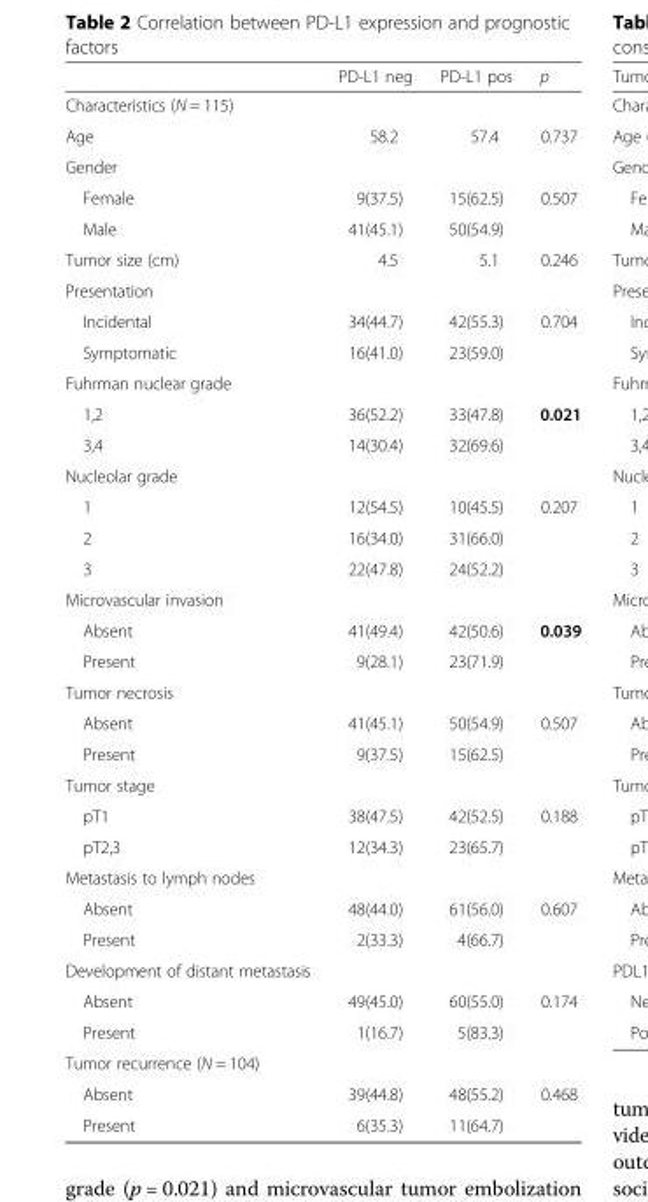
<table><thead><tr><td></td><td>PD-L1 neg</td><td>PD-L1 pos</td><td>p</td></tr></thead><tbody><tr><td colspan="4">Characteristics (N = 115)</td></tr><tr><td>Age</td><td>58.2</td><td>57.4</td><td>0.737</td></tr><tr><td colspan="4">Gender</td></tr><tr><td>Female</td><td>9(37.5)</td><td>15(62.5)</td><td>0.507</td></tr><tr><td>Male</td><td>41(45.1)</td><td>50(54.9)</td><td></td></tr><tr><td>Tumor size (cm)</td><td>4.5</td><td>5.1</td><td>0.246</td></tr><tr><td colspan="4">Presentation</td></tr><tr><td>Incidental</td><td>34(44.7)</td><td>42(55.3)</td><td>0.704</td></tr><tr><td>Symptomatic</td><td>16(41.0)</td><td>23(59.0)</td><td></td></tr><tr><td colspan="4">Fuhrman nuclear grade</td></tr><tr><td>1,2</td><td>36(52.2)</td><td>33(47.8)</td><td>0.021</td></tr><tr><td>3,4</td><td>14(30.4)</td><td>32(69.6)</td><td></td></tr><tr><td colspan="4">Nucleolar grade</td></tr><tr><td>1</td><td>12(54.5)</td><td>10(45.5)</td><td>0.207</td></tr><tr><td>2</td><td>16(34.0)</td><td>31(66.0)</td><td></td></tr><tr><td>3</td><td>22(47.8)</td><td>24(52.2)</td><td></td></tr><tr><td colspan="4">Microvascular invasion</td></tr><tr><td>Absent</td><td>41(49.4)</td><td>42(50.6)</td><td>0.039</td></tr><tr><td>Present</td><td>9(28.1)</td><td>23(71.9)</td><td></td></tr><tr><td colspan="4">Tumor necrosis</td></tr><tr><td>Absent</td><td>41(45.1)</td><td>50(54.9)</td><td>0.507</td></tr><tr><td>Present</td><td>9(37.5)</td><td>15(62.5)</td><td></td></tr><tr><td colspan="4">Tumor stage</td></tr><tr><td>pT1</td><td>38(47.5)</td><td>42(52.5)</td><td>0.188</td></tr><tr><td>pT2,3</td><td>12(34.3)</td><td>23(65.7)</td><td></td></tr><tr><td colspan="4">Metastasis to lymph nodes</td></tr><tr><td>Absent</td><td>48(44.0)</td><td>61(56.0)</td><td>0.607</td></tr><tr><td>Present</td><td>2(33.3)</td><td>4(66.7)</td><td></td></tr><tr><td colspan="4">Development of distant metastasis</td></tr><tr><td>Absent</td><td>49(45.0)</td><td>60(55.0)</td><td>0.174</td></tr><tr><td>Present</td><td>1(16.7)</td><td>5(83.3)</td><td></td></tr><tr><td colspan="4">Tumor recurrence (N = 104)</td></tr><tr><td>Absent</td><td>39(44.8)</td><td>48(55.2)</td><td>0.468</td></tr><tr><td>Present</td><td>6(35.3)</td><td>11(64.7)</td><td></td></tr></tbody></table>